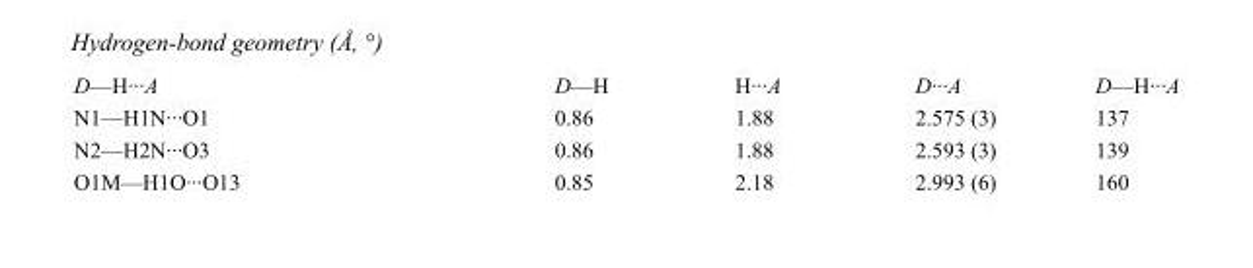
<table><tbody><tr><td>D—H···A</td><td>D—H</td><td>H···A</td><td>D···A</td><td>D—H···A</td></tr><tr><td>N1—H1N···O1</td><td>0.86</td><td>1.88</td><td>2.575 (3)</td><td>137</td></tr><tr><td>N2—H2N···O3</td><td>0.86</td><td>1.88</td><td>2.593 (3)</td><td>139</td></tr><tr><td>O1M—H1O···O13</td><td>0.85</td><td>2.18</td><td>2.993 (6)</td><td>160</td></tr></tbody></table>